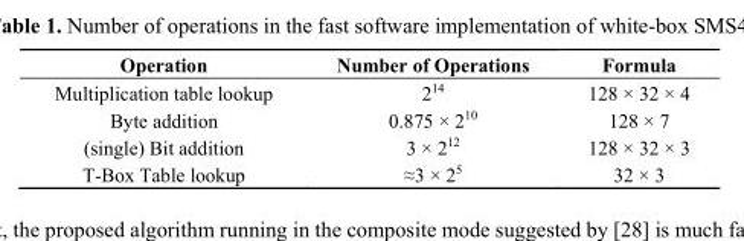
<table><thead><tr><td>Operation</td><td>Number of Operations</td><td>Formula</td></tr></thead><tbody><tr><td>Multiplication table lookup</td><td>2<sup>14</sup></td><td>128 × 32 × 4</td></tr><tr><td>Byte addition</td><td>0.875 × 2<sup>10</sup></td><td>128 × 7</td></tr><tr><td>(single) Bit addition</td><td>3 × 2<sup>12</sup></td><td>128 × 32 × 3</td></tr><tr><td>T-Box Table lookup</td><td>≈3 × 2<sup>5</sup></td><td>32 × 3</td></tr></tbody></table>